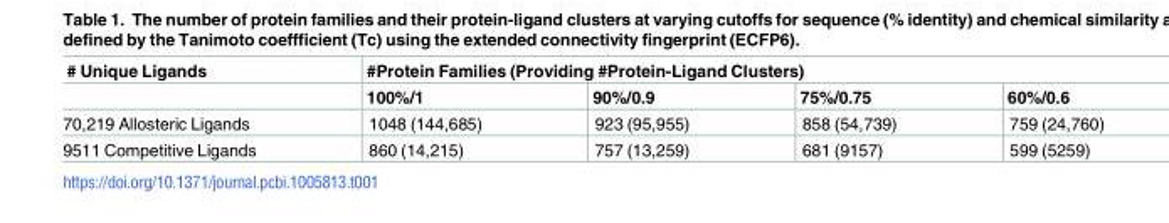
<table><thead><tr><td rowspan="2"># Unique Ligands</td><td colspan="4">#Protein Families (Providing #Protein-Ligand Clusters)</td></tr><tr><td>100%/1</td><td>90%/0.9</td><td>75%/0.75</td><td>60%/0.6</td></tr></thead><tbody><tr><td>70,219 Allosteric Ligands</td><td>1048 (144,685)</td><td>923 (95,955)</td><td>858 (54,739)</td><td>759 (24,760)</td></tr><tr><td>9511 Competitive Ligands</td><td>860 (14,215)</td><td>757 (13,259)</td><td>681 (9157)</td><td>599 (5259)</td></tr></tbody></table>